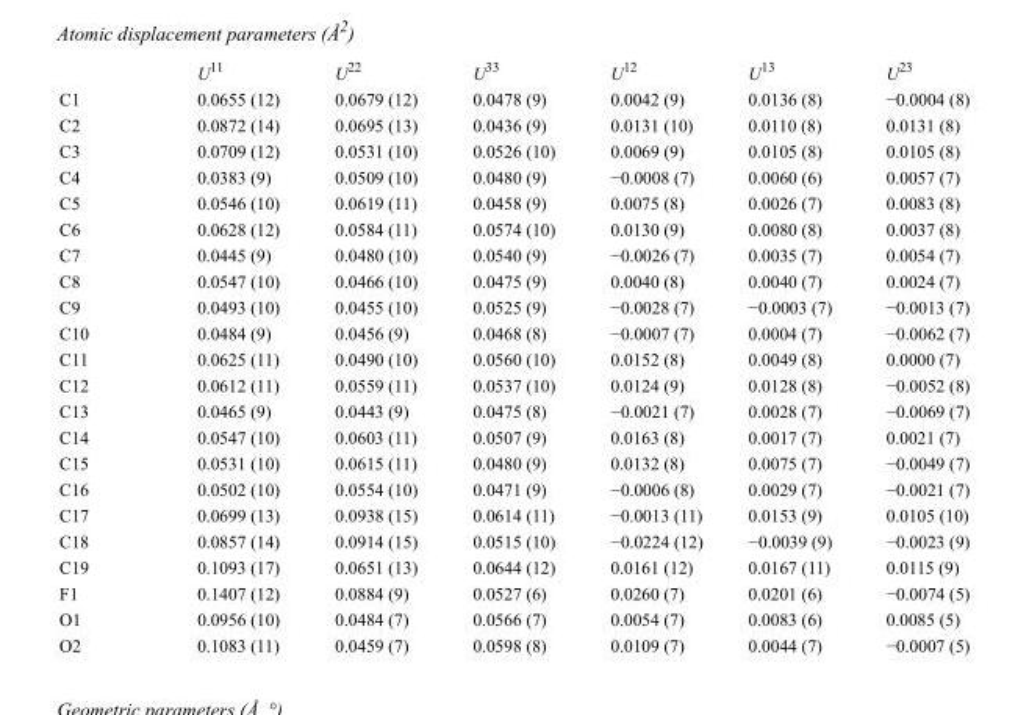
<table><thead><tr><td></td><td>U<sup>11</sup></td><td>U<sup>22</sup></td><td>U<sup>33</sup></td><td>U<sup>12</sup></td><td>U<sup>13</sup></td><td>U<sup>23</sup></td></tr></thead><tbody><tr><td>C1</td><td>0.0655 (12)</td><td>0.0679 (12)</td><td>0.0478 (9)</td><td>0.0042 (9)</td><td>0.0136 (8)</td><td>−0.0004 (8)</td></tr><tr><td>C2</td><td>0.0872 (14)</td><td>0.0695 (13)</td><td>0.0436 (9)</td><td>0.0131 (10)</td><td>0.0110 (8)</td><td>0.0131 (8)</td></tr><tr><td>C3</td><td>0.0709 (12)</td><td>0.0531 (10)</td><td>0.0526 (10)</td><td>0.0069 (9)</td><td>0.0105 (8)</td><td>0.0105 (8)</td></tr><tr><td>C4</td><td>0.0383 (9)</td><td>0.0509 (10)</td><td>0.0480 (9)</td><td>−0.0008 (7)</td><td>0.0060 (6)</td><td>0.0057 (7)</td></tr><tr><td>C5</td><td>0.0546 (10)</td><td>0.0619 (11)</td><td>0.0458 (9)</td><td>0.0075 (8)</td><td>0.0026 (7)</td><td>0.0083 (8)</td></tr><tr><td>C6</td><td>0.0628 (12)</td><td>0.0584 (11)</td><td>0.0574 (10)</td><td>0.0130 (9)</td><td>0.0080 (8)</td><td>0.0037 (8)</td></tr><tr><td>C7</td><td>0.0445 (9)</td><td>0.0480 (10)</td><td>0.0540 (9)</td><td>−0.0026 (7)</td><td>0.0035 (7)</td><td>0.0054 (7)</td></tr><tr><td>C8</td><td>0.0547 (10)</td><td>0.0466 (10)</td><td>0.0475 (9)</td><td>0.0040 (8)</td><td>0.0040 (7)</td><td>0.0024 (7)</td></tr><tr><td>C9</td><td>0.0493 (10)</td><td>0.0455 (10)</td><td>0.0525 (9)</td><td>−0.0028 (7)</td><td>−0.0003 (7)</td><td>−0.0013 (7)</td></tr><tr><td>C10</td><td>0.0484 (9)</td><td>0.0456 (9)</td><td>0.0468 (8)</td><td>−0.0007 (7)</td><td>0.0004 (7)</td><td>−0.0062 (7)</td></tr><tr><td>C11</td><td>0.0625 (11)</td><td>0.0490 (10)</td><td>0.0560 (10)</td><td>0.0152 (8)</td><td>0.0049 (8)</td><td>0.0000 (7)</td></tr><tr><td>C12</td><td>0.0612 (11)</td><td>0.0559 (11)</td><td>0.0537 (10)</td><td>0.0124 (9)</td><td>0.0128 (8)</td><td>−0.0052 (8)</td></tr><tr><td>C13</td><td>0.0465 (9)</td><td>0.0443 (9)</td><td>0.0475 (8)</td><td>−0.0021 (7)</td><td>0.0028 (7)</td><td>−0.0069 (7)</td></tr><tr><td>C14</td><td>0.0547 (10)</td><td>0.0603 (11)</td><td>0.0507 (9)</td><td>0.0163 (8)</td><td>0.0017 (7)</td><td>0.0021 (7)</td></tr><tr><td>C15</td><td>0.0531 (10)</td><td>0.0615 (11)</td><td>0.0480 (9)</td><td>0.0132 (8)</td><td>0.0075 (7)</td><td>−0.0049 (7)</td></tr><tr><td>C16</td><td>0.0502 (10)</td><td>0.0554 (10)</td><td>0.0471 (9)</td><td>−0.0006 (8)</td><td>0.0029 (7)</td><td>−0.0021 (7)</td></tr><tr><td>C17</td><td>0.0699 (13)</td><td>0.0938 (15)</td><td>0.0614 (11)</td><td>−0.0013 (11)</td><td>0.0153 (9)</td><td>0.0105 (10)</td></tr><tr><td>C18</td><td>0.0857 (14)</td><td>0.0914 (15)</td><td>0.0515 (10)</td><td>−0.0224 (12)</td><td>−0.0039 (9)</td><td>−0.0023 (9)</td></tr><tr><td>C19</td><td>0.1093 (17)</td><td>0.0651 (13)</td><td>0.0644 (12)</td><td>0.0161 (12)</td><td>0.0167 (11)</td><td>0.0115 (9)</td></tr><tr><td>F1</td><td>0.1407 (12)</td><td>0.0884 (9)</td><td>0.0527 (6)</td><td>0.0260 (7)</td><td>0.0201 (6)</td><td>−0.0074 (5)</td></tr><tr><td>O1</td><td>0.0956 (10)</td><td>0.0484 (7)</td><td>0.0566 (7)</td><td>0.0054 (7)</td><td>0.0083 (6)</td><td>0.0085 (5)</td></tr><tr><td>O2</td><td>0.1083 (11)</td><td>0.0459 (7)</td><td>0.0598 (8)</td><td>0.0109 (7)</td><td>0.0044 (7)</td><td>−0.0007 (5)</td></tr></tbody></table>